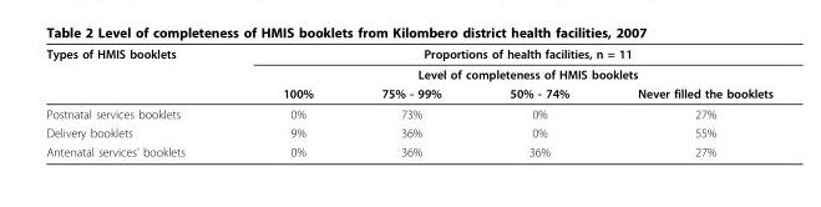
<table><thead><tr><td rowspan="3">Types of HMIS booklets</td><td rowspan="2" colspan="4">Proportions of health facilities, n = 11 Level of completeness of HMIS booklets</td></tr><tr></tr><tr><td>100%</td><td>75% - 99%</td><td>50% - 74%</td><td>Never filled the booklets</td></tr></thead><tbody><tr><td>Postnatal services booklets</td><td>0%</td><td>73%</td><td>0%</td><td>27%</td></tr><tr><td>Delivery booklets</td><td>9%</td><td>36%</td><td>0%</td><td>55%</td></tr><tr><td>Antenatal services’ booklets</td><td>0%</td><td>36%</td><td>36%</td><td>27%</td></tr></tbody></table>